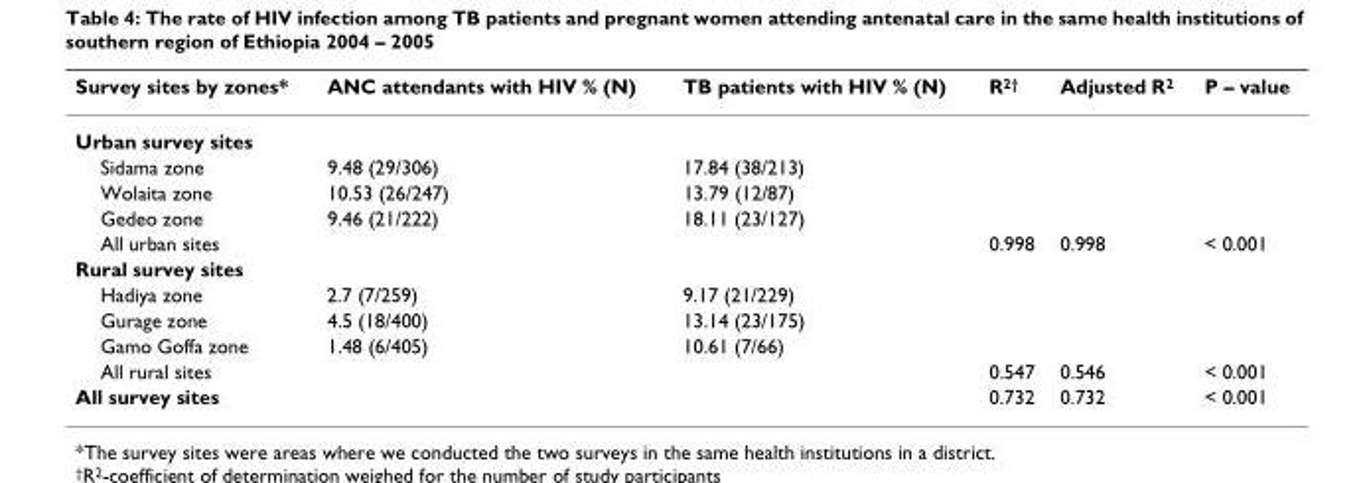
<table><thead><tr><td>Survey sites by zones*</td><td>ANC attendants with HIV % (N)</td><td>TB patients with HIV % (N)</td><td>R<sup>2†</sup></td><td>Adjusted R<sup>2</sup></td><td>P – value</td></tr></thead><tbody><tr><td colspan="6">Urban survey sites</td></tr><tr><td>Sidama zone</td><td>9.48 (29/306)</td><td>17.84 (38/213)</td><td></td><td></td><td></td></tr><tr><td>Wolaita zone</td><td>10.53 (26/247)</td><td>13.79 (12/87)</td><td></td><td></td><td></td></tr><tr><td>Gedeo zone</td><td>9.46 (21/222)</td><td>18.11 (23/127)</td><td></td><td></td><td></td></tr><tr><td>All urban sites</td><td></td><td></td><td>0.998</td><td>0.998</td><td>&lt; 0.001</td></tr><tr><td colspan="6">Rural survey sites</td></tr><tr><td>Hadiya zone</td><td>2.7 (7/259)</td><td>9.17 (21/229)</td><td></td><td></td><td></td></tr><tr><td>Gurage zone</td><td>4.5 (18/400)</td><td>13.14 (23/175)</td><td></td><td></td><td></td></tr><tr><td>Gamo Goffa zone</td><td>1.48 (6/405)</td><td>10.61 (7/66)</td><td></td><td></td><td></td></tr><tr><td>All rural sites</td><td></td><td></td><td>0.547</td><td>0.546</td><td>&lt; 0.001</td></tr><tr><td>All survey sites</td><td></td><td></td><td>0.732</td><td>0.732</td><td>&lt; 0.001</td></tr></tbody></table>